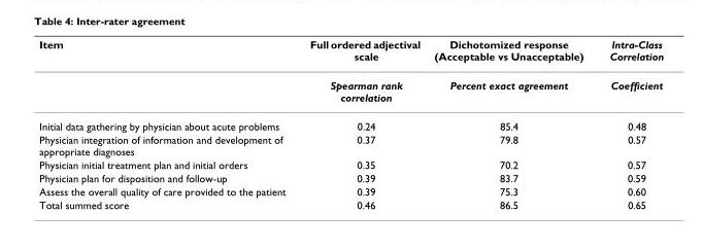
<table><thead><tr><td>Item</td><td>Full ordered adjectival scale</td><td>Dichotomized response (Acceptable vs Unacceptable)</td><td>Intra-Class Correlation</td></tr></thead><tbody><tr><td></td><td>Spearman rank correlation</td><td>Percent exact agreement</td><td>Coefficient</td></tr><tr><td>Initial data gathering by physician about acute problems</td><td>0.24</td><td>85.4</td><td>0.48</td></tr><tr><td>Physician integration of information and development of appropriate diagnoses</td><td>0.37</td><td>79.8</td><td>0.57</td></tr><tr><td>Physician initial treatment plan and initial orders</td><td>0.35</td><td>70.2</td><td>0.57</td></tr><tr><td>Physician plan for disposition and follow-up</td><td>0.39</td><td>83.7</td><td>0.59</td></tr><tr><td>Assess the overall quality of care provided to the patient</td><td>0.39</td><td>75.3</td><td>0.60</td></tr><tr><td>Total summed score</td><td>0.46</td><td>86.5</td><td>0.65</td></tr></tbody></table>